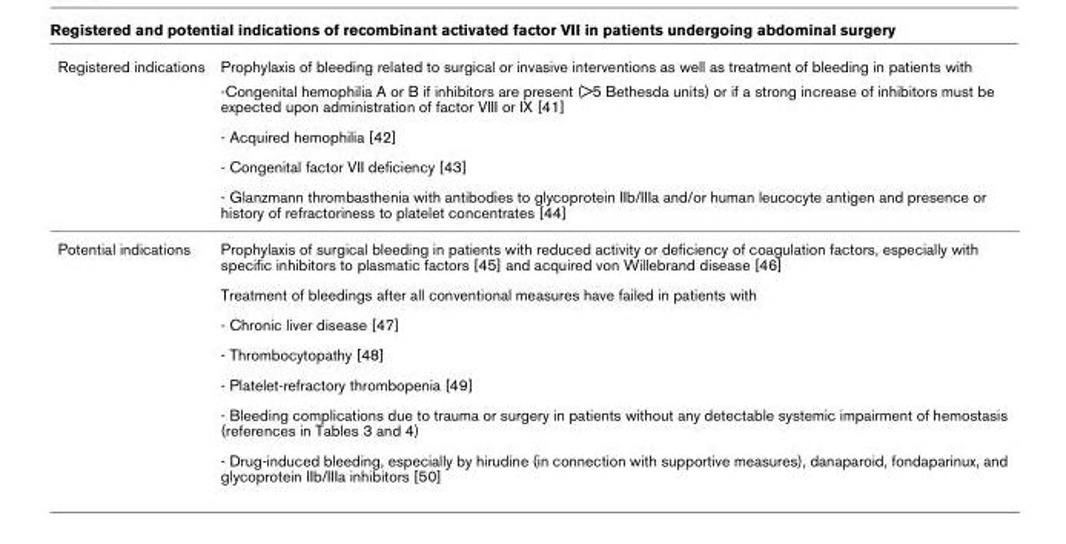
<table><thead><tr><td rowspan="5">Registered indications</td><td rowspan="5">Prophylaxis of bleeding related to surgical or invasive interventions as well as treatment of bleeding in patients with -Congenital hemophilia A or B if inhibitors are present (&gt;5 Bethesda units) or if a strong increase of inhibitors must be expected upon administration of factor VIII or IX [41] - Acquired hemophilia [42] - Congenital factor VII deficiency [43] - Glanzmann thrombasthenia with antibodies to glycoprotein IIb/IIIa and/or human leucocyte antigen and presence or history of refractoriness to platelet concentrates [44]</td></tr><tr></tr><tr></tr><tr></tr><tr></tr></thead><tbody><tr><td rowspan="7">Potential indications</td><td>Prophylaxis of surgical bleeding in patients with reduced activity or deficiency of coagulation factors, especially with specific inhibitors to plasmatic factors [45] and acquired von Willebrand disease [46]</td></tr><tr><td>Treatment of bleedings after all conventional measures have failed in patients with</td></tr><tr><td>- Chronic liver disease [47]</td></tr><tr><td>- Thrombocytopathy [48]</td></tr><tr><td>- Platelet-refractory thrombopenia [49]</td></tr><tr><td>- Bleeding complications due to trauma or surgery in patients without any detectable systemic impairment of hemostasis (references in Tables 3 and 4)</td></tr><tr><td>- Drug-induced bleeding, especially by hirudine (in connection with supportive measures), danaparoid, fondaparinux, and glycoprotein IIb/IIIa inhibitors [50]</td></tr></tbody></table>